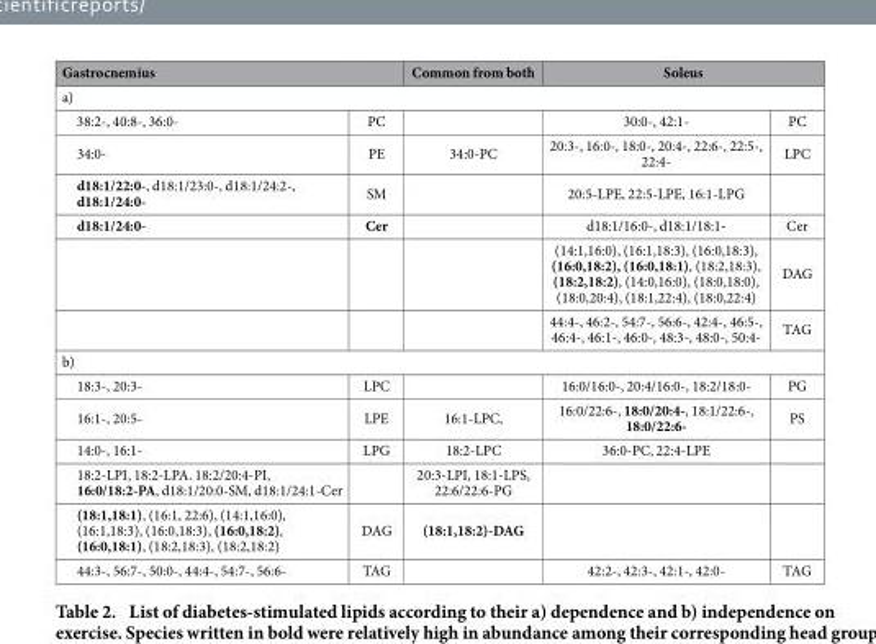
<table><thead><tr><td colspan="2">Gastrocnemius</td><td>Common from both</td><td colspan="2">Soleus</td></tr><tr><td colspan="5">a)</td></tr><tr><td>38:2-, 40:8-, 36:0-</td><td>PC</td><td></td><td>30:0-, 42:1-</td><td>PC</td></tr></thead><tbody><tr><td>34:0-</td><td>PE</td><td>34:0-PC</td><td>20:3-, 16:0-, 18:0-, 20:4-, 22:6-, 22:5-, 22:4-</td><td>LPC</td></tr><tr><td>d18:1/22:0-, d18:1/23:0-, d18:1/24:2-, d18:1/24:0-</td><td>SM</td><td></td><td>20:5-LPE, 22:5-LPE, 16:1-LPG</td><td></td></tr><tr><td rowspan="3">d18:1/24:0-</td><td>Cer</td><td></td><td>d18:1/16:0-, d18:1/18:1-</td><td>Cer</td></tr><tr><td></td><td></td><td>(14:1,16:0), (16:1,18:3), (16:0,18:3), (16:0,18:2), (16:0,18:1), (18:2,18:3), (18:2,18:2), (14:0,16:0), (18:0,18:0), (18:0,20:4), (18:1,22:4), (18:0,22:4)</td><td>DAG</td></tr><tr><td></td><td></td><td>44:4-, 46:2-, 54:7-, 56:6-, 42:4-, 46:5-, 46:4-, 46:1-, 46:0-, 48:3-, 48:0-, 50:4-</td><td>TAG</td></tr><tr><td colspan="5">b)</td></tr><tr><td>18:3-, 20:3-</td><td>LPC</td><td></td><td>16:0/16:0-, 20:4/16:0-, 18:2/18:0-</td><td>PG</td></tr><tr><td>16:1-, 20:5-</td><td>LPE</td><td>16:1-LPC,</td><td>16:0/22:6-, 18:0/20:4-, 18:1/22:6-, 18:0/22:6-</td><td>PS</td></tr><tr><td>14:0-, 16:1-</td><td>LPG</td><td>18:2-LPC</td><td>36:0-PC, 22:4-LPE</td><td></td></tr><tr><td>18:2-LPI, 18:2-LPA. 18:2/20:4-PI, 16:0/18:2-PA, d18:1/20:0-SM, d18:1/24:1-Cer</td><td></td><td>20:3-LPI, 18:1-LPS, 22:6/22:6-PG</td><td></td><td></td></tr><tr><td>(18:1,18:1), (16:1, 22:6), (14:1,16:0), (16:1,18:3), (16:0,18:3), (16:0,18:2), (16:0,18:1), (18:2,18:3), (18:2,18:2)</td><td>DAG</td><td>(18:1,18:2)-DAG</td><td></td><td></td></tr><tr><td>44:3-, 56:7-, 50:0-, 44:4-, 54:7-, 56:6-</td><td>TAG</td><td></td><td>42:2-, 42:3-, 42:1-, 42:0-</td><td>TAG</td></tr></tbody></table>